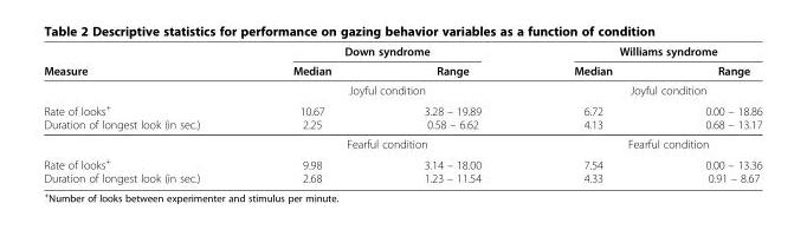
<table><thead><tr><td rowspan="2">Measure</td><td colspan="2">Down syndrome</td><td colspan="2">Williams syndrome</td></tr><tr><td>Median</td><td>Range</td><td>Median</td><td>Range</td></tr></thead><tbody><tr><td></td><td colspan="2">Joyful condition</td><td colspan="2">Joyful condition</td></tr><tr><td>Rate of looks<sup>+</sup></td><td>10.67</td><td>3.28 – 19.89</td><td>6.72</td><td>0.00 – 18.86</td></tr><tr><td rowspan="2">Duration of longest look (in sec.)</td><td>2.25</td><td>0.58 – 6.62</td><td>4.13</td><td>0.68 – 13.17</td></tr><tr><td colspan="2">Fearful condition</td><td colspan="2">Fearful condition</td></tr><tr><td>Rate of looks<sup>+</sup></td><td>9.98</td><td>3.14 – 18.00</td><td>7.54</td><td>0.00 – 13.36</td></tr><tr><td>Duration of longest look (in sec.)</td><td>2.68</td><td>1.23 – 11.54</td><td>4.33</td><td>0.91 – 8.67</td></tr></tbody></table>